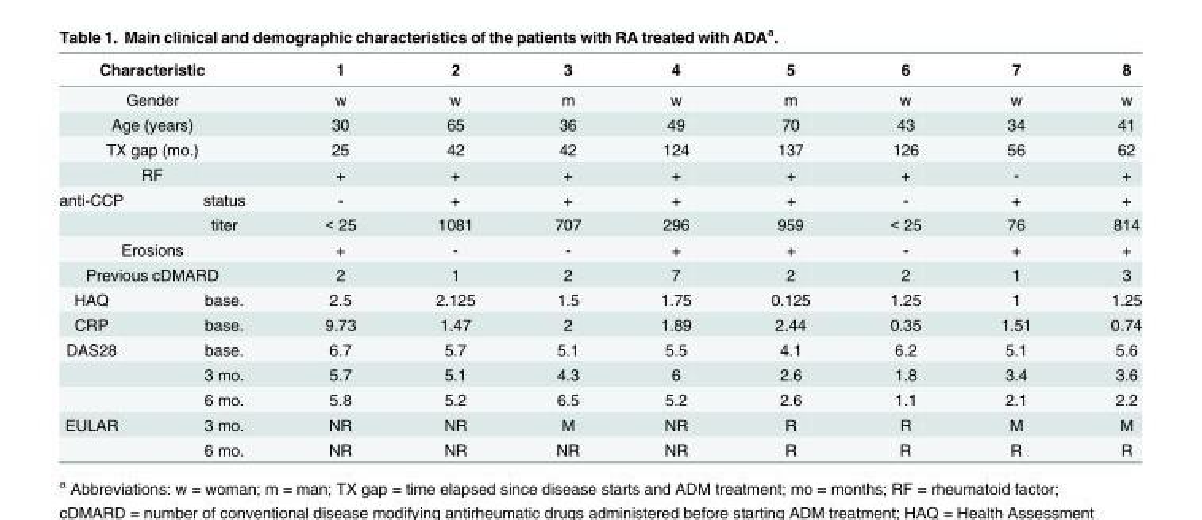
<table><thead><tr><td colspan="2">Characteristic</td><td>1</td><td>2</td><td>3</td><td>4</td><td>5</td><td>6</td><td>7</td><td>8</td></tr></thead><tbody><tr><td colspan="2">Gender</td><td>w</td><td>w</td><td>m</td><td>w</td><td>m</td><td>w</td><td>w</td><td>w</td></tr><tr><td colspan="2">Age (years)</td><td>30</td><td>65</td><td>36</td><td>49</td><td>70</td><td>43</td><td>34</td><td>41</td></tr><tr><td colspan="2">TX gap (mo.)</td><td>25</td><td>42</td><td>42</td><td>124</td><td>137</td><td>126</td><td>56</td><td>62</td></tr><tr><td colspan="2">RF</td><td>+</td><td>+</td><td>+</td><td>+</td><td>+</td><td>+</td><td>-</td><td>+</td></tr><tr><td rowspan="2">anti-CCP</td><td>status</td><td>-</td><td>+</td><td>+</td><td>+</td><td>+</td><td>-</td><td>+</td><td>+</td></tr><tr><td>titer</td><td>&lt; 25</td><td>1081</td><td>707</td><td>296</td><td>959</td><td>&lt; 25</td><td>76</td><td>814</td></tr><tr><td colspan="2">Erosions</td><td>+</td><td>-</td><td>-</td><td>+</td><td>+</td><td>-</td><td>+</td><td>+</td></tr><tr><td colspan="2">Previous cDMARD</td><td>2</td><td>1</td><td>2</td><td>7</td><td>2</td><td>2</td><td>1</td><td>3</td></tr><tr><td>HAQ</td><td>base.</td><td>2.5</td><td>2.125</td><td>1.5</td><td>1.75</td><td>0.125</td><td>1.25</td><td>1</td><td>1.25</td></tr><tr><td>CRP</td><td>base.</td><td>9.73</td><td>1.47</td><td>2</td><td>1.89</td><td>2.44</td><td>0.35</td><td>1.51</td><td>0.74</td></tr><tr><td rowspan="3">DAS28</td><td>base.</td><td>6.7</td><td>5.7</td><td>5.1</td><td>5.5</td><td>4.1</td><td>6.2</td><td>5.1</td><td>5.6</td></tr><tr><td>3 mo.</td><td>5.7</td><td>5.1</td><td>4.3</td><td>6</td><td>2.6</td><td>1.8</td><td>3.4</td><td>3.6</td></tr><tr><td>6 mo.</td><td>5.8</td><td>5.2</td><td>6.5</td><td>5.2</td><td>2.6</td><td>1.1</td><td>2.1</td><td>2.2</td></tr><tr><td rowspan="2">EULAR</td><td>3 mo.</td><td>NR</td><td>NR</td><td>M</td><td>NR</td><td>R</td><td>R</td><td>M</td><td>M</td></tr><tr><td>6 mo.</td><td>NR</td><td>NR</td><td>NR</td><td>NR</td><td>R</td><td>R</td><td>R</td><td>R</td></tr></tbody></table>